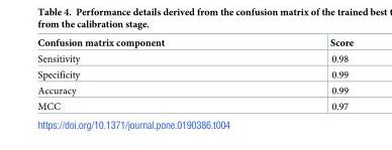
<table><thead><tr><td>Confusion matrix component</td><td>Score</td></tr></thead><tbody><tr><td>Sensitivity</td><td>0.98</td></tr><tr><td>Specificity</td><td>0.99</td></tr><tr><td>Accuracy</td><td>0.99</td></tr><tr><td>MCC</td><td>0.97</td></tr></tbody></table>